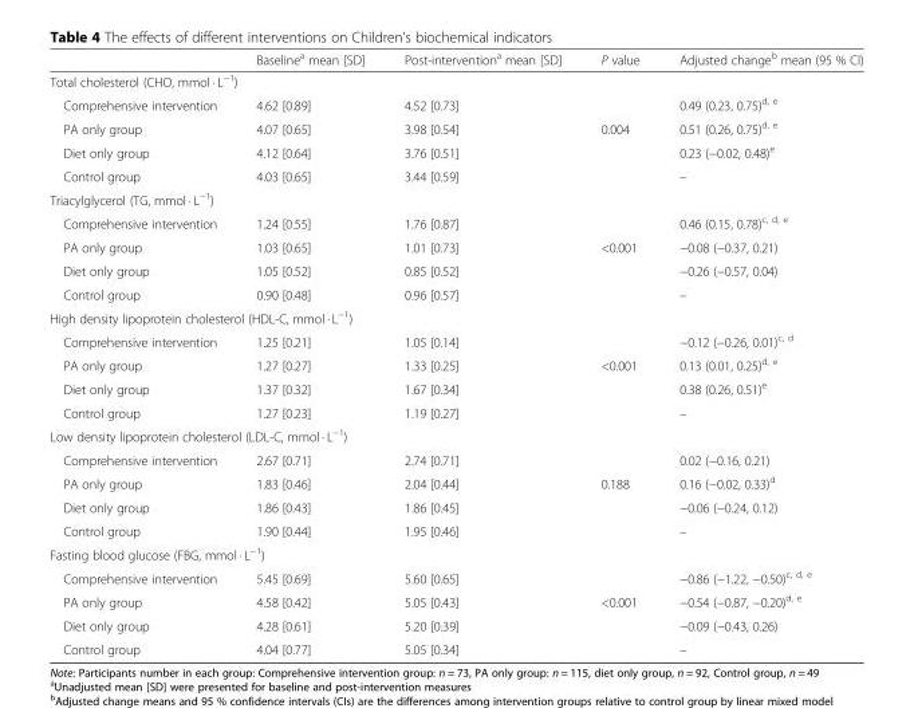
<table><thead><tr><td></td><td>Baseline<sup>a</sup> mean [SD]</td><td>Post-intervention<sup>a</sup> mean [SD]</td><td>P value</td><td>Adjusted change<sup>b</sup> mean (95 % CI)</td></tr></thead><tbody><tr><td colspan="5">Total cholesterol (CHO, mmol · L<sup>−1</sup>)</td></tr><tr><td>Comprehensive intervention</td><td>4.62 [0.89]</td><td>4.52 [0.73]</td><td></td><td>0.49 (0.23, 0.75)<sup>d, e</sup></td></tr><tr><td>PA only group</td><td>4.07 [0.65]</td><td>3.98 [0.54]</td><td>0.004</td><td>0.51 (0.26, 0.75)<sup>d, e</sup></td></tr><tr><td>Diet only group</td><td>4.12 [0.64]</td><td>3.76 [0.51]</td><td></td><td>0.23 (−0.02, 0.48)<sup>e</sup></td></tr><tr><td>Control group</td><td>4.03 [0.65]</td><td>3.44 [0.59]</td><td></td><td>–</td></tr><tr><td colspan="5">Triacylglycerol (TG, mmol · L<sup>−1</sup>)</td></tr><tr><td>Comprehensive intervention</td><td>1.24 [0.55]</td><td>1.76 [0.87]</td><td></td><td>0.46 (0.15, 0.78)<sup>c, d, e</sup></td></tr><tr><td>PA only group</td><td>1.03 [0.65]</td><td>1.01 [0.73]</td><td>&lt;0.001</td><td>−0.08 (−0.37, 0.21)</td></tr><tr><td>Diet only group</td><td>1.05 [0.52]</td><td>0.85 [0.52]</td><td></td><td>−0.26 (−0.57, 0.04)</td></tr><tr><td>Control group</td><td>0.90 [0.48]</td><td>0.96 [0.57]</td><td></td><td>–</td></tr><tr><td colspan="5">High density lipoprotein cholesterol (HDL-C, mmol · L<sup>−1</sup>)</td></tr><tr><td>Comprehensive intervention</td><td>1.25 [0.21]</td><td>1.05 [0.14]</td><td></td><td>−0.12 (−0.26, 0.01)<sup>c, d</sup></td></tr><tr><td>PA only group</td><td>1.27 [0.27]</td><td>1.33 [0.25]</td><td>&lt;0.001</td><td>0.13 (0.01, 0.25)<sup>d, e</sup></td></tr><tr><td>Diet only group</td><td>1.37 [0.32]</td><td>1.67 [0.34]</td><td></td><td>0.38 (0.26, 0.51)<sup>e</sup></td></tr><tr><td>Control group</td><td>1.27 [0.23]</td><td>1.19 [0.27]</td><td></td><td>–</td></tr><tr><td colspan="5">Low density lipoprotein cholesterol (LDL-C, mmol · L<sup>−1</sup>)</td></tr><tr><td>Comprehensive intervention</td><td>2.67 [0.71]</td><td>2.74 [0.71]</td><td></td><td>0.02 (−0.16, 0.21)</td></tr><tr><td>PA only group</td><td>1.83 [0.46]</td><td>2.04 [0.44]</td><td>0.188</td><td>0.16 (−0.02, 0.33)<sup>d</sup></td></tr><tr><td>Diet only group</td><td>1.86 [0.43]</td><td>1.86 [0.45]</td><td></td><td>−0.06 (−0.24, 0.12)</td></tr><tr><td>Control group</td><td>1.90 [0.44]</td><td>1.95 [0.46]</td><td></td><td>–</td></tr><tr><td colspan="5">Fasting blood glucose (FBG, mmol · L<sup>−1</sup>)</td></tr><tr><td>Comprehensive intervention</td><td>5.45 [0.69]</td><td>5.60 [0.65]</td><td></td><td>−0.86 (−1.22, −0.50)<sup>c, d, e</sup></td></tr><tr><td>PA only group</td><td>4.58 [0.42]</td><td>5.05 [0.43]</td><td>&lt;0.001</td><td>−0.54 (−0.87, −0.20)<sup>d, e</sup></td></tr><tr><td>Diet only group</td><td>4.28 [0.61]</td><td>5.20 [0.39]</td><td></td><td>−0.09 (−0.43, 0.26)</td></tr><tr><td>Control group</td><td>4.04 [0.77]</td><td>5.05 [0.34]</td><td></td><td>–</td></tr></tbody></table>